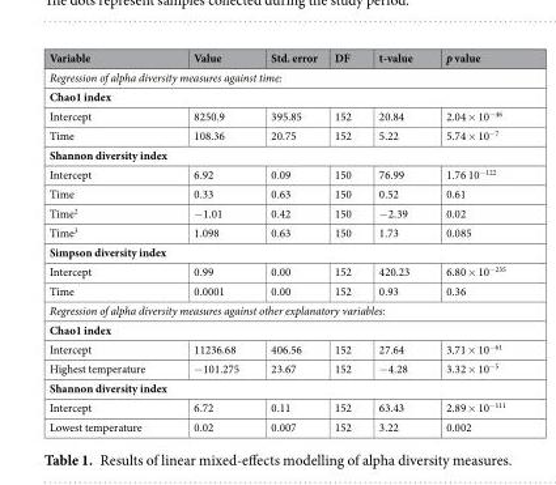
<table><thead><tr><td>Variable</td><td>Value</td><td>Std. error</td><td>DF</td><td>t-value</td><td>p value</td></tr></thead><tbody><tr><td colspan="6">Regression of alpha diversity measures against time:</td></tr><tr><td colspan="6">Chao1 index</td></tr><tr><td>Intercept</td><td>8250.9</td><td>395.85</td><td>152</td><td>20.84</td><td>2.04 × 10<sup>−46</sup></td></tr><tr><td>Time</td><td>108.36</td><td>20.75</td><td>152</td><td>5.22</td><td>5.74 × 10<sup>−7</sup></td></tr><tr><td colspan="6">Shannon diversity index</td></tr><tr><td>Intercept</td><td>6.92</td><td>0.09</td><td>150</td><td>76.99</td><td>1.76 10<sup>−122</sup></td></tr><tr><td>Time</td><td>0.33</td><td>0.63</td><td>150</td><td>0.52</td><td>0.61</td></tr><tr><td>Time<sup>2</sup></td><td>−1.01</td><td>0.42</td><td>150</td><td>−2.39</td><td>0.02</td></tr><tr><td>Time<sup>3</sup></td><td>1.098</td><td>0.63</td><td>150</td><td>1.73</td><td>0.085</td></tr><tr><td colspan="6">Simpson diversity index</td></tr><tr><td>Intercept</td><td>0.99</td><td>0.00</td><td>152</td><td>420.23</td><td>6.80 × 10<sup>−235</sup></td></tr><tr><td>Time</td><td>0.0001</td><td>0.00</td><td>152</td><td>0.93</td><td>0.36</td></tr><tr><td colspan="6">Regression of alpha diversity measures against other explanatory variables:</td></tr><tr><td colspan="6">Chao1 index</td></tr><tr><td>Intercept</td><td>11236.68</td><td>406.56</td><td>152</td><td>27.64</td><td>3.71 × 10<sup>−61</sup></td></tr><tr><td>Highest temperature</td><td>−101.275</td><td>23.67</td><td>152</td><td>−4.28</td><td>3.32 × 10<sup>−5</sup></td></tr><tr><td colspan="6">Shannon diversity index</td></tr><tr><td>Intercept</td><td>6.72</td><td>0.11</td><td>152</td><td>63.43</td><td>2.89 × 10<sup>−111</sup></td></tr><tr><td>Lowest temperature</td><td>0.02</td><td>0.007</td><td>152</td><td>3.22</td><td>0.002</td></tr></tbody></table>